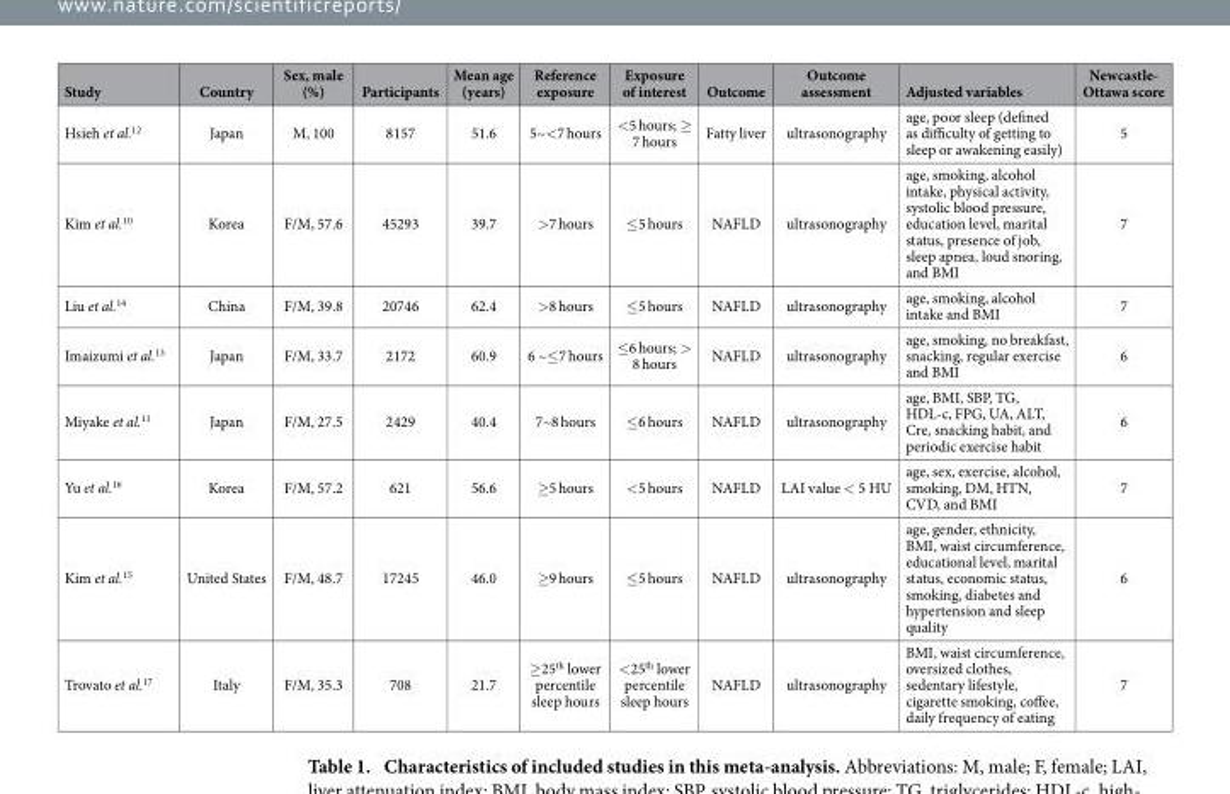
<table><thead><tr><td>Study</td><td>Country</td><td>Sex, male (%)</td><td>Participants</td><td>Mean age (years)</td><td>Reference exposure</td><td>Exposure of interest</td><td>Outcome</td><td>Outcome assessment</td><td>Adjusted variables</td><td>Newcastle- Ottawa score</td></tr></thead><tbody><tr><td>Hsieh et al.<sup>12</sup></td><td>Japan</td><td>M, 100</td><td>8157</td><td>51.6</td><td>5~&lt; 7 hours</td><td>&lt; 5 hours; ≥ 7 hours</td><td>Fatty liver</td><td>ultrasonography</td><td>age, poor sleep (defined as difficulty of getting to sleep or awakening easily)</td><td>5</td></tr><tr><td>Kim et al.<sup>10</sup></td><td>Korea</td><td>F/M, 57.6</td><td>45293</td><td>39.7</td><td>&gt; 7 hours</td><td>≤ 5 hours</td><td>NAFLD</td><td>ultrasonography</td><td>age, smoking, alcohol intake, physical activity, systolic blood pressure, education level, marital status, presence of job, sleep apnea, loud snoring, and BMI</td><td>7</td></tr><tr><td>Liu et al.<sup>14</sup></td><td>China</td><td>F/M, 39.8</td><td>20746</td><td>62.4</td><td>&gt; 8 hours</td><td>≤ 5 hours</td><td>NAFLD</td><td>ultrasonography</td><td>age, smoking, alcohol intake and BMI</td><td>7</td></tr><tr><td>Imaizumi et al.<sup>13</sup></td><td>Japan</td><td>F/M, 33.7</td><td>2172</td><td>60.9</td><td>6 ~≤ 7 hours</td><td>≤ 6 hours; &gt; 8 hours</td><td>NAFLD</td><td>ultrasonography</td><td>age, smoking, no breakfast, snacking, regular exercise and BMI</td><td>6</td></tr><tr><td>Miyake et al.<sup>11</sup></td><td>Japan</td><td>F/M, 27.5</td><td>2429</td><td>40.4</td><td>7~8 hours</td><td>≤ 6 hours</td><td>NAFLD</td><td>ultrasonography</td><td>age, BMI, SBP, TG, HDL-c, FPG, UA, ALT, Cre, snacking habit, and periodic exercise habit</td><td>6</td></tr><tr><td>Yu et al.<sup>16</sup></td><td>Korea</td><td>F/M, 57.2</td><td>621</td><td>56.6</td><td>≥ 5 hours</td><td>&lt; 5 hours</td><td>NAFLD</td><td>LAI value &lt; 5 HU</td><td>age, sex, exercise, alcohol, smoking, DM, HTN, CVD, and BMI</td><td>7</td></tr><tr><td>Kim et al.<sup>15</sup></td><td>United States</td><td>F/M, 48.7</td><td>17245</td><td>46.0</td><td>≥ 9 hours</td><td>≤ 5 hours</td><td>NAFLD</td><td>ultrasonography</td><td>age, gender, ethnicity, BMI, waist circumference, educational level, marital status, economic status, smoking, diabetes and hypertension and sleep quality</td><td>6</td></tr><tr><td>Trovato et al.<sup>17</sup></td><td>Italy</td><td>F/M, 35.3</td><td>708</td><td>21.7</td><td>≥ 25<sup>th</sup> lower percentile sleep hours</td><td>&lt; 25<sup>th</sup> lower percentile sleep hours</td><td>NAFLD</td><td>ultrasonography</td><td>BMI, waist circumference, oversized clothes, sedentary lifestyle, cigarette smoking, coffee, daily frequency of eating</td><td>7</td></tr></tbody></table>